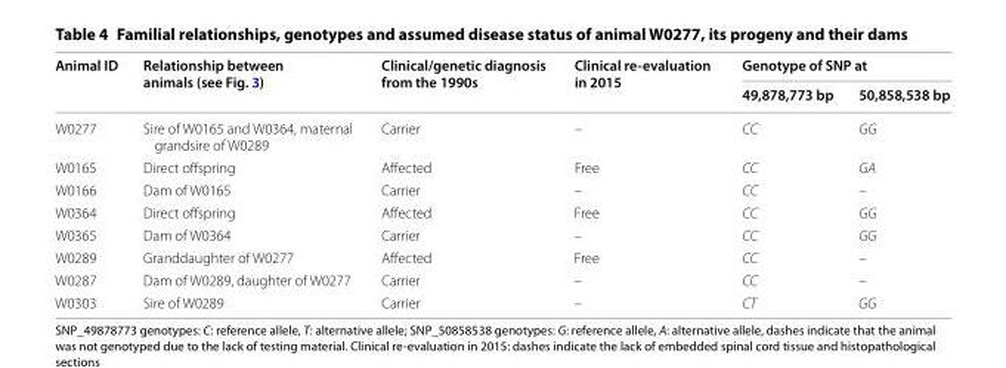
<table><thead><tr><td rowspan="2">Animal ID</td><td rowspan="2">Relationship between animals (see Fig. 3)</td><td rowspan="2">Clinical/genetic diagnosis from the 1990s</td><td rowspan="2">Clinical re‑evaluation in 2015</td><td colspan="2">Genotype of SNP at</td></tr><tr><td>49,878,773 bp</td><td>50,858,538 bp</td></tr></thead><tbody><tr><td>W0277</td><td>Sire of W0165 and W0364, maternal grandsire of W0289</td><td>Carrier</td><td>–</td><td>CC</td><td>GG</td></tr><tr><td>W0165</td><td>Direct offspring</td><td>Affected</td><td>Free</td><td>CC</td><td>GA</td></tr><tr><td>W0166</td><td>Dam of W0165</td><td>Carrier</td><td>–</td><td>CC</td><td>–</td></tr><tr><td>W0364</td><td>Direct offspring</td><td>Affected</td><td>Free</td><td>CC</td><td>GG</td></tr><tr><td>W0365</td><td>Dam of W0364</td><td>Carrier</td><td>–</td><td>CC</td><td>GG</td></tr><tr><td>W0289</td><td>Granddaughter of W0277</td><td>Affected</td><td>Free</td><td>CC</td><td>–</td></tr><tr><td>W0287</td><td>Dam of W0289, daughter of W0277</td><td>Carrier</td><td>–</td><td>CC</td><td>–</td></tr><tr><td>W0303</td><td>Sire of W0289</td><td>Carrier</td><td>–</td><td>CT</td><td>GG</td></tr></tbody></table>